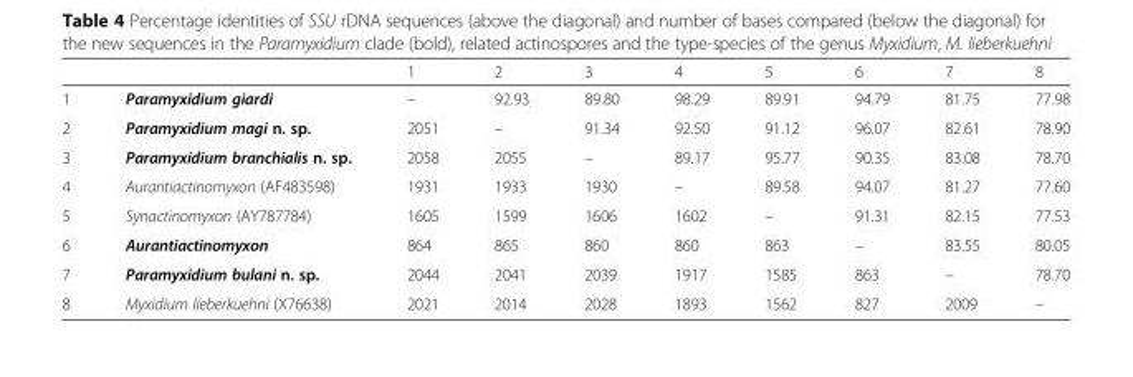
<table><thead><tr><td></td><td></td><td>1</td><td>2</td><td>3</td><td>4</td><td>5</td><td>6</td><td>7</td><td>8</td></tr></thead><tbody><tr><td>1</td><td>Paramyxidium giardi</td><td>–</td><td>92.93</td><td>89.80</td><td>98.29</td><td>89.91</td><td>94.79</td><td>81.75</td><td>77.98</td></tr><tr><td>2</td><td>Paramyxidium magi n. sp.</td><td>2051</td><td>–</td><td>91.34</td><td>92.50</td><td>91.12</td><td>96.07</td><td>82.61</td><td>78.90</td></tr><tr><td>3</td><td>Paramyxidium branchialis n. sp.</td><td>2058</td><td>2055</td><td>–</td><td>89.17</td><td>95.77</td><td>90.35</td><td>83.08</td><td>78.70</td></tr><tr><td>4</td><td>Aurantiactinomyxon (AF483598)</td><td>1931</td><td>1933</td><td>1930</td><td>–</td><td>89.58</td><td>94.07</td><td>81.27</td><td>77.60</td></tr><tr><td>5</td><td>Synactinomyxon (AY787784)</td><td>1605</td><td>1599</td><td>1606</td><td>1602</td><td>–</td><td>91.31</td><td>82.15</td><td>77.53</td></tr><tr><td>6</td><td>Aurantiactinomyxon</td><td>864</td><td>865</td><td>860</td><td>860</td><td>863</td><td>–</td><td>83.55</td><td>80.05</td></tr><tr><td>7</td><td>Paramyxidium bulani n. sp.</td><td>2044</td><td>2041</td><td>2039</td><td>1917</td><td>1585</td><td>863</td><td>–</td><td>78.70</td></tr><tr><td>8</td><td>Myxidium lieberkuehni (X76638)</td><td>2021</td><td>2014</td><td>2028</td><td>1893</td><td>1562</td><td>827</td><td>2009</td><td>–</td></tr></tbody></table>